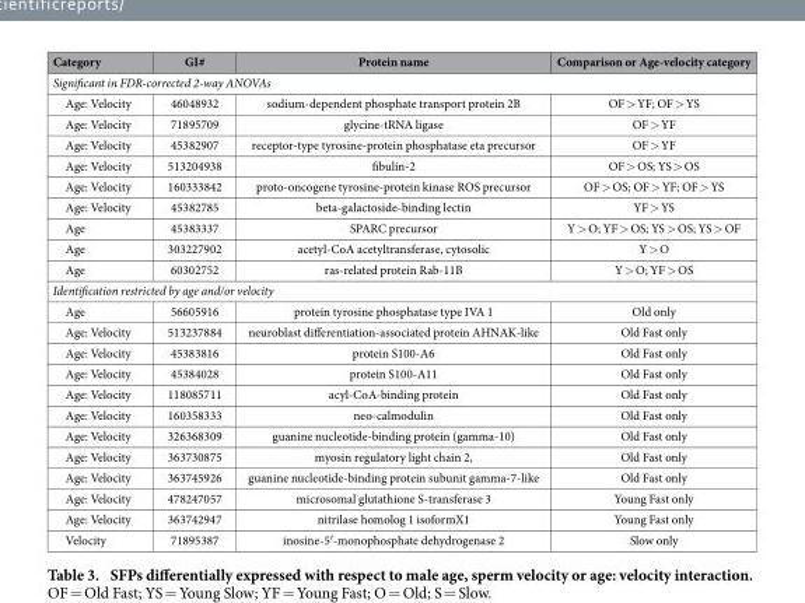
<table><thead><tr><td>Category</td><td>GI#</td><td>Protein name</td><td>Comparison or Age-velocity category</td></tr></thead><tbody><tr><td colspan="4">Significant in FDR-corrected 2-way ANOVAs</td></tr><tr><td>Age: Velocity</td><td>46048932</td><td>sodium-dependent phosphate transport protein 2B</td><td>OF &gt; YF; OF &gt; YS</td></tr><tr><td>Age: Velocity</td><td>71895709</td><td>glycine-tRNA ligase</td><td>OF &gt; YF</td></tr><tr><td>Age: Velocity</td><td>45382907</td><td>receptor-type tyrosine-protein phosphatase eta precursor</td><td>OF &gt; YF</td></tr><tr><td>Age: Velocity</td><td>513204938</td><td>fibulin-2</td><td>OF &gt; OS; YS &gt; OS</td></tr><tr><td>Age: Velocity</td><td>160333842</td><td>proto-oncogene tyrosine-protein kinase ROS precursor</td><td>OF &gt; OS; OF &gt; YF; OF &gt; YS</td></tr><tr><td>Age: Velocity</td><td>45382785</td><td>beta-galactoside-binding lectin</td><td>YF &gt; YS</td></tr><tr><td>Age</td><td>45383337</td><td>SPARC precursor</td><td>Y &gt; O; YF &gt; OS; YS &gt; OS; YS &gt; OF</td></tr><tr><td>Age</td><td>303227902</td><td>acetyl-CoA acetyltransferase, cytosolic</td><td>Y &gt; O</td></tr><tr><td>Age</td><td>60302752</td><td>ras-related protein Rab-11B</td><td>Y &gt; O; YF &gt; OS</td></tr><tr><td colspan="4">Identification restricted by age and/or velocity</td></tr><tr><td>Age</td><td>56605916</td><td>protein tyrosine phosphatase type IVA 1</td><td>Old only</td></tr><tr><td>Age: Velocity</td><td>513237884</td><td>neuroblast differentiation-associated protein AHNAK-like</td><td>Old Fast only</td></tr><tr><td>Age: Velocity</td><td>45383816</td><td>protein S100-A6</td><td>Old Fast only</td></tr><tr><td>Age: Velocity</td><td>45384028</td><td>protein S100-A11</td><td>Old Fast only</td></tr><tr><td>Age: Velocity</td><td>118085711</td><td>acyl-CoA-binding protein</td><td>Old Fast only</td></tr><tr><td>Age: Velocity</td><td>160358333</td><td>neo-calmodulin</td><td>Old Fast only</td></tr><tr><td>Age: Velocity</td><td>326368309</td><td>guanine nucleotide-binding protein (gamma-10)</td><td>Old Fast only</td></tr><tr><td>Age: Velocity</td><td>363730875</td><td>myosin regulatory light chain 2,</td><td>Old Fast only</td></tr><tr><td>Age: Velocity</td><td>363745926</td><td>guanine nucleotide-binding protein subunit gamma-7-like</td><td>Old Fast only</td></tr><tr><td>Age: Velocity</td><td>478247057</td><td>microsomal glutathione S-transferase 3</td><td>Young Fast only</td></tr><tr><td>Age: Velocity</td><td>363742947</td><td>nitrilase homolog 1 isoformX1</td><td>Young Fast only</td></tr><tr><td>Velocity</td><td>71895387</td><td>inosine-5′ -monophosphate dehydrogenase 2</td><td>Slow only</td></tr></tbody></table>